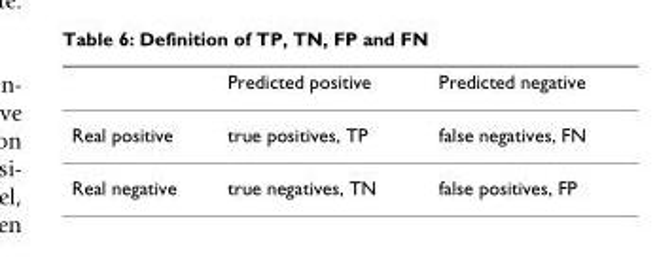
<table><thead><tr><td></td><td>Predicted positive</td><td>Predicted negative</td></tr></thead><tbody><tr><td>Real positive</td><td>true positives, TP</td><td>false negatives, FN</td></tr><tr><td>Real negative</td><td>true negatives, TN</td><td>false positives, FP</td></tr></tbody></table>